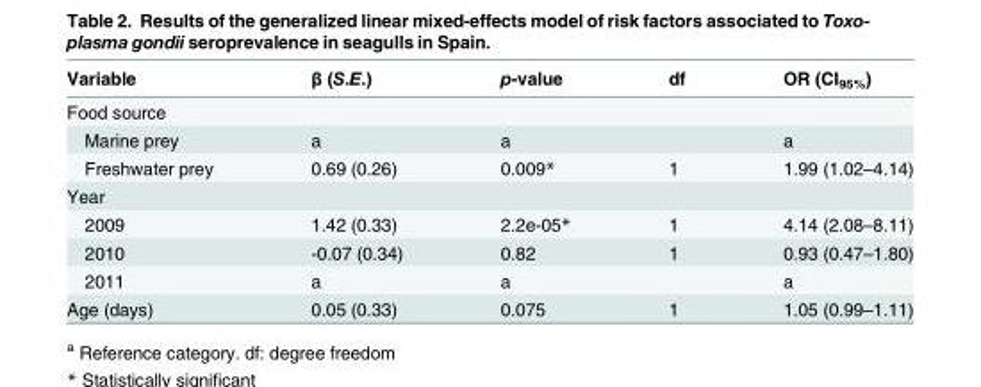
<table><thead><tr><td>Variable</td><td>β (S.E.)</td><td>p-value</td><td>df</td><td>OR (CI<sub>95%</sub>)</td></tr></thead><tbody><tr><td colspan="5">Food source</td></tr><tr><td>Marine prey</td><td>a</td><td>a</td><td></td><td>a</td></tr><tr><td>Freshwater prey</td><td>0.69 (0.26)</td><td>0.009*</td><td>1</td><td>1.99 (1.02–4.14)</td></tr><tr><td colspan="5">Year</td></tr><tr><td>2009</td><td>1.42 (0.33)</td><td>2.2e-05*</td><td>1</td><td>4.14 (2.08–8.11)</td></tr><tr><td>2010</td><td>-0.07 (0.34)</td><td>0.82</td><td>1</td><td>0.93 (0.47–1.80)</td></tr><tr><td>2011</td><td>a</td><td>a</td><td></td><td>a</td></tr><tr><td>Age (days)</td><td>0.05 (0.33)</td><td>0.075</td><td>1</td><td>1.05 (0.99–1.11)</td></tr></tbody></table>